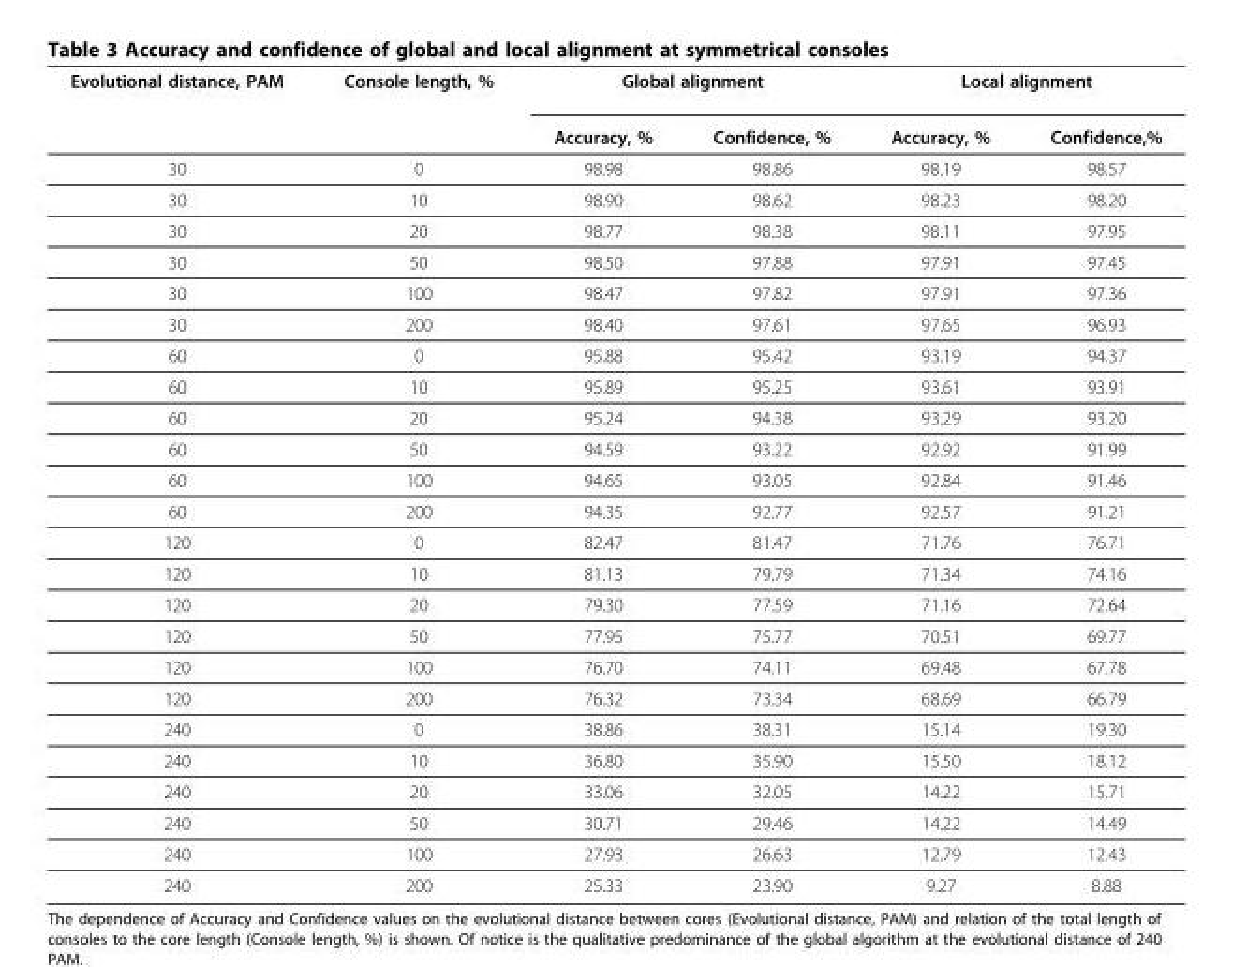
<table><thead><tr><td rowspan="2">Evolutional distance, PAM</td><td rowspan="2">Console length, %</td><td colspan="2">Global alignment</td><td colspan="2">Local alignment</td></tr><tr><td>Accuracy, %</td><td>Confidence, %</td><td>Accuracy, %</td><td>Confidence,%</td></tr></thead><tbody><tr><td>30</td><td>0</td><td>98.98</td><td>98.86</td><td>98.19</td><td>98.57</td></tr><tr><td>30</td><td>10</td><td>98.90</td><td>98.62</td><td>98.23</td><td>98.20</td></tr><tr><td>30</td><td>20</td><td>98.77</td><td>98.38</td><td>98.11</td><td>97.95</td></tr><tr><td>30</td><td>50</td><td>98.50</td><td>97.88</td><td>97.91</td><td>97.45</td></tr><tr><td>30</td><td>100</td><td>98.47</td><td>97.82</td><td>97.91</td><td>97.36</td></tr><tr><td>30</td><td>200</td><td>98.40</td><td>97.61</td><td>97.65</td><td>96.93</td></tr><tr><td>60</td><td>0</td><td>95.88</td><td>95.42</td><td>93.19</td><td>94.37</td></tr><tr><td>60</td><td>10</td><td>95.89</td><td>95.25</td><td>93.61</td><td>93.91</td></tr><tr><td>60</td><td>20</td><td>95.24</td><td>94.38</td><td>93.29</td><td>93.20</td></tr><tr><td>60</td><td>50</td><td>94.59</td><td>93.22</td><td>92.92</td><td>91.99</td></tr><tr><td>60</td><td>100</td><td>94.65</td><td>93.05</td><td>92.84</td><td>91.46</td></tr><tr><td>60</td><td>200</td><td>94.35</td><td>92.77</td><td>92.57</td><td>91.21</td></tr><tr><td>120</td><td>0</td><td>82.47</td><td>81.47</td><td>71.76</td><td>76.71</td></tr><tr><td>120</td><td>10</td><td>81.13</td><td>79.79</td><td>71.34</td><td>74.16</td></tr><tr><td>120</td><td>20</td><td>79.30</td><td>77.59</td><td>71.16</td><td>72.64</td></tr><tr><td>120</td><td>50</td><td>77.95</td><td>75.77</td><td>70.51</td><td>69.77</td></tr><tr><td>120</td><td>100</td><td>76.70</td><td>74.11</td><td>69.48</td><td>67.78</td></tr><tr><td>120</td><td>200</td><td>76.32</td><td>73.34</td><td>68.69</td><td>66.79</td></tr><tr><td>240</td><td>0</td><td>38.86</td><td>38.31</td><td>15.14</td><td>19.30</td></tr><tr><td>240</td><td>10</td><td>36.80</td><td>35.90</td><td>15.50</td><td>18.12</td></tr><tr><td>240</td><td>20</td><td>33.06</td><td>32.05</td><td>14.22</td><td>15.71</td></tr><tr><td>240</td><td>50</td><td>30.71</td><td>29.46</td><td>14.22</td><td>14.49</td></tr><tr><td>240</td><td>100</td><td>27.93</td><td>26.63</td><td>12.79</td><td>12.43</td></tr><tr><td>240</td><td>200</td><td>25.33</td><td>23.90</td><td>9.27</td><td>8.88</td></tr></tbody></table>